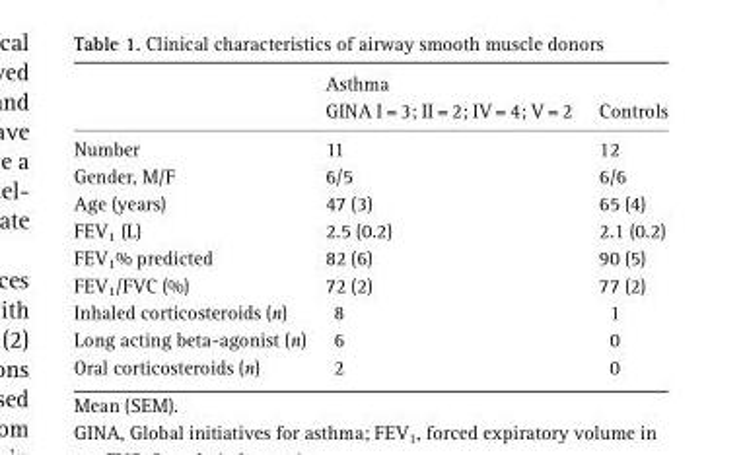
<table><thead><tr><td></td><td>Asthma GINA I = 3; II = 2; IV = 4; V = 2</td><td>Controls</td></tr></thead><tbody><tr><td>Number</td><td>11</td><td>12</td></tr><tr><td>Gender, M/F</td><td>6/5</td><td>6/6</td></tr><tr><td>Age (years)</td><td>47 (3)</td><td>65 (4)</td></tr><tr><td>FEV<sub>1</sub> (L)</td><td>2.5 (0.2)</td><td>2.1 (0.2)</td></tr><tr><td>FEV<sub>1</sub>% predicted</td><td>82 (6)</td><td>90 (5)</td></tr><tr><td>FEV<sub>1</sub>/FVC (%)</td><td>72 (2)</td><td>77 (2)</td></tr><tr><td>Inhaled corticosteroids (n)</td><td>8</td><td>1</td></tr><tr><td>Long acting beta-agonist (n)</td><td>6</td><td>0</td></tr><tr><td>Oral corticosteroids (n)</td><td>2</td><td>0</td></tr></tbody></table>